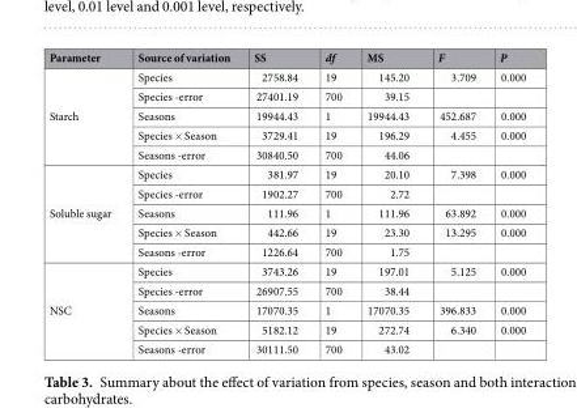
<table><thead><tr><td>Parameter</td><td>Source of variation</td><td>SS</td><td>df</td><td>MS</td><td>F</td><td>P</td></tr></thead><tbody><tr><td rowspan="5">Starch</td><td>Species</td><td>2758.84</td><td>19</td><td>145.20</td><td>3.709</td><td>0.000</td></tr><tr><td>Species -error</td><td>27401.19</td><td>700</td><td>39.15</td><td></td><td></td></tr><tr><td>Seasons</td><td>19944.43</td><td>1</td><td>19944.43</td><td>452.687</td><td>0.000</td></tr><tr><td>Species × Season</td><td>3729.41</td><td>19</td><td>196.29</td><td>4.455</td><td>0.000</td></tr><tr><td>Seasons -error</td><td>30840.50</td><td>700</td><td>44.06</td><td></td><td></td></tr><tr><td rowspan="5">Soluble sugar</td><td>Species</td><td>381.97</td><td>19</td><td>20.10</td><td>7.398</td><td>0.000</td></tr><tr><td>Species -error</td><td>1902.27</td><td>700</td><td>2.72</td><td></td><td></td></tr><tr><td>Seasons</td><td>111.96</td><td>1</td><td>111.96</td><td>63.892</td><td>0.000</td></tr><tr><td>Species × Season</td><td>442.66</td><td>19</td><td>23.30</td><td>13.295</td><td>0.000</td></tr><tr><td>Seasons -error</td><td>1226.64</td><td>700</td><td>1.75</td><td></td><td></td></tr><tr><td rowspan="5">NSC</td><td>Species</td><td>3743.26</td><td>19</td><td>197.01</td><td>5.125</td><td>0.000</td></tr><tr><td>Species -error</td><td>26907.55</td><td>700</td><td>38.44</td><td></td><td></td></tr><tr><td>Seasons</td><td>17070.35</td><td>1</td><td>17070.35</td><td>396.833</td><td>0.000</td></tr><tr><td>Species × Season</td><td>5182.12</td><td>19</td><td>272.74</td><td>6.340</td><td>0.000</td></tr><tr><td>Seasons -error</td><td>30111.50</td><td>700</td><td>43.02</td><td></td><td></td></tr></tbody></table>